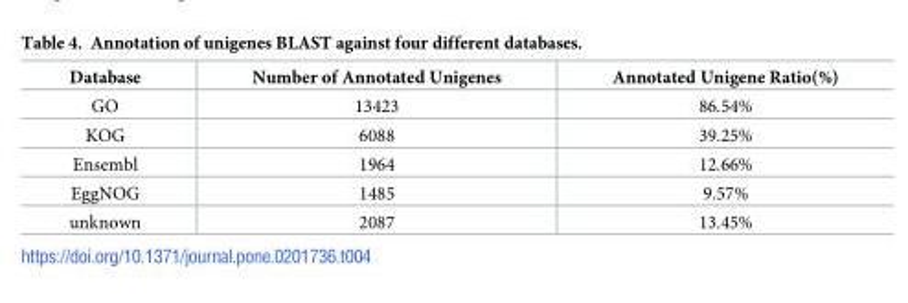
<table><thead><tr><td>Database</td><td>Number of Annotated Unigenes</td><td>Annotated Unigene Ratio(%)</td></tr></thead><tbody><tr><td>GO</td><td>13423</td><td>86.54%</td></tr><tr><td>KOG</td><td>6088</td><td>39.25%</td></tr><tr><td>Ensembl</td><td>1964</td><td>12.66%</td></tr><tr><td>EggNOG</td><td>1485</td><td>9.57%</td></tr><tr><td>unknown</td><td>2087</td><td>13.45%</td></tr></tbody></table>